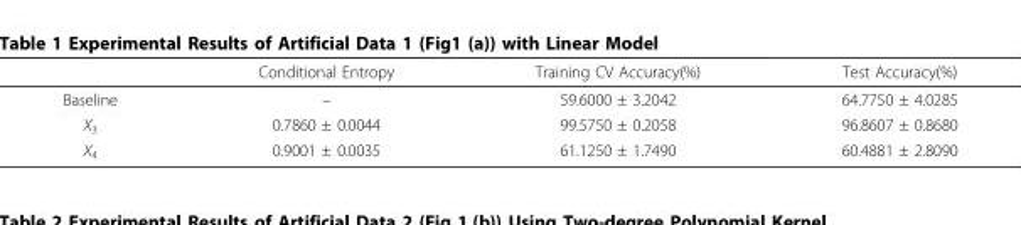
<table><thead><tr><td></td><td>Conditional Entropy</td><td>Training CV Accuracy(%)</td><td>Test Accuracy(%)</td></tr></thead><tbody><tr><td>Baseline</td><td>–</td><td>59.6000 ± 3.2042</td><td>64.7750 ± 4.0285</td></tr><tr><td>X<sub>3</sub></td><td>0.7860 ± 0.0044</td><td>99.5750 ± 0.2058</td><td>96.8607 ± 0.8680</td></tr><tr><td>X<sub>4</sub></td><td>0.9001 ± 0.0035</td><td>61.1250 ± 1.7490</td><td>60.4881 ± 2.8090</td></tr></tbody></table>